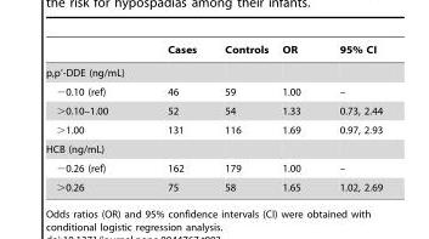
<table><thead><tr><td></td><td>Cases</td><td>Controls</td><td>OR</td><td>95% CI</td></tr></thead><tbody><tr><td colspan="5">p,p’-DDE (ng/mL)</td></tr><tr><td>−0.10 (ref)</td><td>46</td><td>59</td><td>1.00</td><td>–</td></tr><tr><td>&gt;0.10–1.00</td><td>52</td><td>54</td><td>1.33</td><td>0.73, 2.44</td></tr><tr><td>&gt;1.00</td><td>131</td><td>116</td><td>1.69</td><td>0.97, 2.93</td></tr><tr><td colspan="5">HCB (ng/mL)</td></tr><tr><td>−0.26 (ref)</td><td>162</td><td>179</td><td>1.00</td><td>–</td></tr><tr><td>&gt;0.26</td><td>75</td><td>58</td><td>1.65</td><td>1.02, 2.69</td></tr></tbody></table>